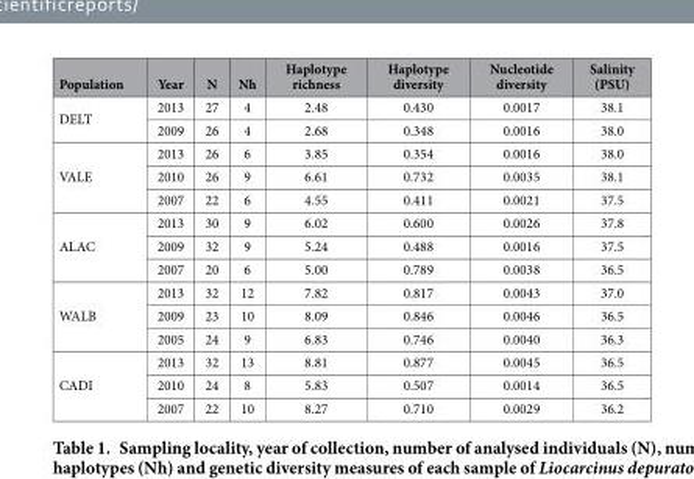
<table><thead><tr><td>Population</td><td>Year</td><td>N</td><td>Nh</td><td>Haplotype richness</td><td>Haplotype diversity</td><td>Nucleotide diversity</td><td>Salinity (PSU)</td></tr></thead><tbody><tr><td rowspan="2">DELT</td><td>2013</td><td>27</td><td>4</td><td>2.48</td><td>0.430</td><td>0.0017</td><td>38.1</td></tr><tr><td>2009</td><td>26</td><td>4</td><td>2.68</td><td>0.348</td><td>0.0016</td><td>38.0</td></tr><tr><td rowspan="3">VALE</td><td>2013</td><td>26</td><td>6</td><td>3.85</td><td>0.354</td><td>0.0016</td><td>38.0</td></tr><tr><td>2010</td><td>26</td><td>9</td><td>6.61</td><td>0.732</td><td>0.0035</td><td>38.1</td></tr><tr><td>2007</td><td>22</td><td>6</td><td>4.55</td><td>0.411</td><td>0.0021</td><td>37.5</td></tr><tr><td rowspan="3">ALAC</td><td>2013</td><td>30</td><td>9</td><td>6.02</td><td>0.600</td><td>0.0026</td><td>37.8</td></tr><tr><td>2009</td><td>32</td><td>9</td><td>5.24</td><td>0.488</td><td>0.0016</td><td>37.5</td></tr><tr><td>2007</td><td>20</td><td>6</td><td>5.00</td><td>0.789</td><td>0.0038</td><td>36.5</td></tr><tr><td rowspan="3">WALB</td><td>2013</td><td>32</td><td>12</td><td>7.82</td><td>0.817</td><td>0.0043</td><td>37.0</td></tr><tr><td>2009</td><td>23</td><td>10</td><td>8.09</td><td>0.846</td><td>0.0046</td><td>36.5</td></tr><tr><td>2005</td><td>24</td><td>9</td><td>6.83</td><td>0.746</td><td>0.0040</td><td>36.3</td></tr><tr><td rowspan="3">CADI</td><td>2013</td><td>32</td><td>13</td><td>8.81</td><td>0.877</td><td>0.0045</td><td>36.5</td></tr><tr><td>2010</td><td>24</td><td>8</td><td>5.83</td><td>0.507</td><td>0.0014</td><td>36.5</td></tr><tr><td>2007</td><td>22</td><td>10</td><td>8.27</td><td>0.710</td><td>0.0029</td><td>36.2</td></tr></tbody></table>